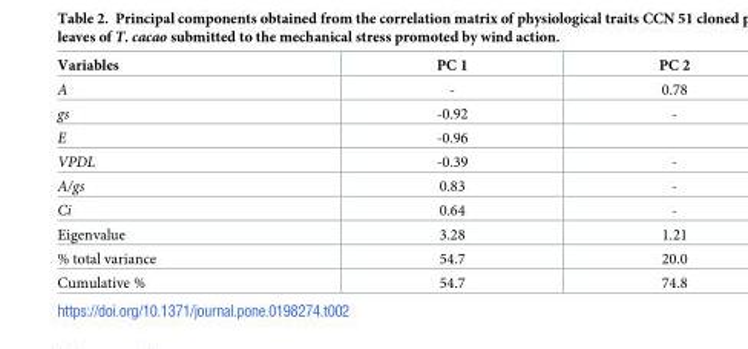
<table><thead><tr><td>Variables</td><td>PC 1</td><td>PC 2</td></tr></thead><tbody><tr><td>A</td><td>-</td><td>0.78</td></tr><tr><td>gs</td><td>-0.92</td><td>-</td></tr><tr><td>E</td><td>-0.96</td><td></td></tr><tr><td>VPDL</td><td>-0.39</td><td>-</td></tr><tr><td>A/gs</td><td>0.83</td><td>-</td></tr><tr><td>Ci</td><td>0.64</td><td>-</td></tr><tr><td>Eigenvalue</td><td>3.28</td><td>1.21</td></tr><tr><td>% total variance</td><td>54.7</td><td>20.0</td></tr><tr><td>Cumulative %</td><td>54.7</td><td>74.8</td></tr></tbody></table>